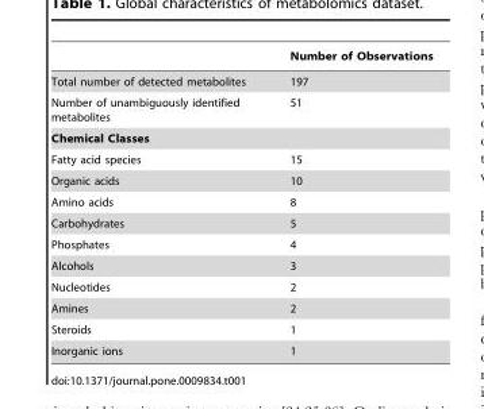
<table><thead><tr><td></td><td>Number of Observations</td></tr></thead><tbody><tr><td>Total number of detected metabolites</td><td>197</td></tr><tr><td>Number of unambiguously identified metabolites</td><td>51</td></tr><tr><td colspan="2">Chemical Classes</td></tr><tr><td>Fatty acid species</td><td>15</td></tr><tr><td>Organic acids</td><td>10</td></tr><tr><td>Amino acids</td><td>8</td></tr><tr><td>Carbohydrates</td><td>5</td></tr><tr><td>Phosphates</td><td>4</td></tr><tr><td>Alcohols</td><td>3</td></tr><tr><td>Nucleotides</td><td>2</td></tr><tr><td>Amines</td><td>2</td></tr><tr><td>Steroids</td><td>1</td></tr><tr><td>Inorganic ions</td><td>1</td></tr></tbody></table>